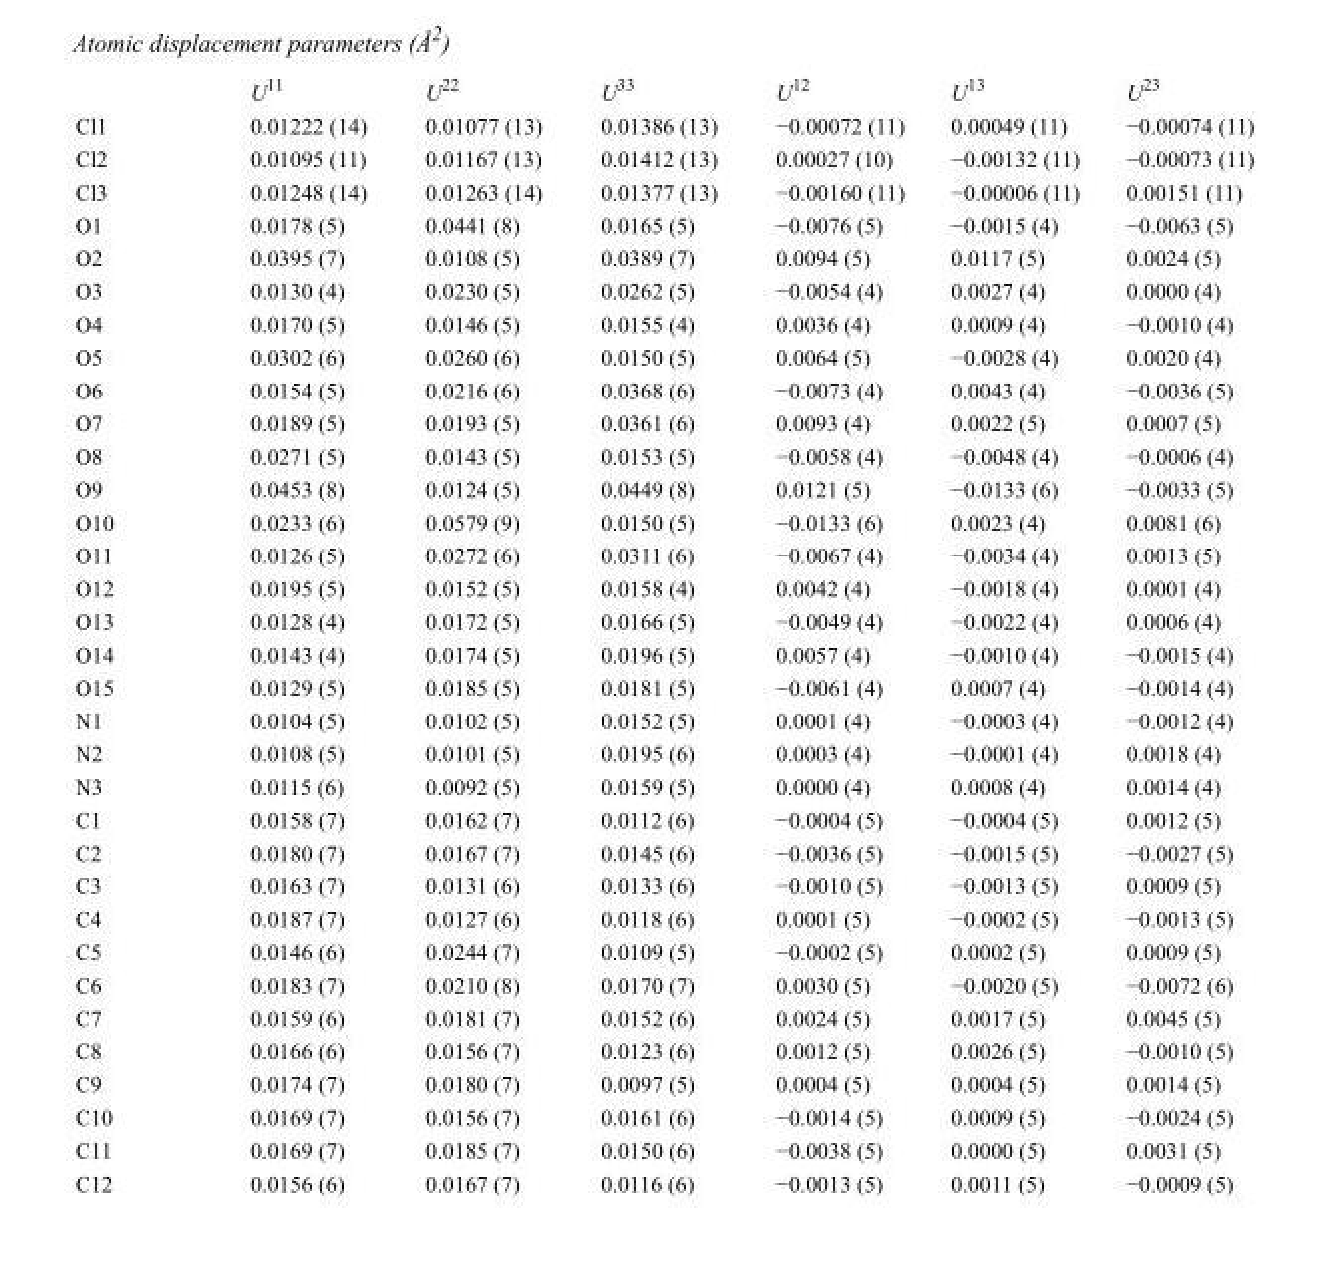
<table><thead><tr><td></td><td>U<sup>11</sup></td><td>U<sup>22</sup></td><td>U<sup>33</sup></td><td>U<sup>12</sup></td><td>U<sup>13</sup></td><td>U<sup>23</sup></td></tr></thead><tbody><tr><td>Cl1</td><td>0.01222 (14)</td><td>0.01077 (13)</td><td>0.01386 (13)</td><td>−0.00072 (11)</td><td>0.00049 (11)</td><td>−0.00074 (11)</td></tr><tr><td>Cl2</td><td>0.01095 (11)</td><td>0.01167 (13)</td><td>0.01412 (13)</td><td>0.00027 (10)</td><td>−0.00132 (11)</td><td>−0.00073 (11)</td></tr><tr><td>Cl3</td><td>0.01248 (14)</td><td>0.01263 (14)</td><td>0.01377 (13)</td><td>−0.00160 (11)</td><td>−0.00006 (11)</td><td>0.00151 (11)</td></tr><tr><td>O1</td><td>0.0178 (5)</td><td>0.0441 (8)</td><td>0.0165 (5)</td><td>−0.0076 (5)</td><td>−0.0015 (4)</td><td>−0.0063 (5)</td></tr><tr><td>O2</td><td>0.0395 (7)</td><td>0.0108 (5)</td><td>0.0389 (7)</td><td>0.0094 (5)</td><td>0.0117 (5)</td><td>0.0024 (5)</td></tr><tr><td>O3</td><td>0.0130 (4)</td><td>0.0230 (5)</td><td>0.0262 (5)</td><td>−0.0054 (4)</td><td>0.0027 (4)</td><td>0.0000 (4)</td></tr><tr><td>O4</td><td>0.0170 (5)</td><td>0.0146 (5)</td><td>0.0155 (4)</td><td>0.0036 (4)</td><td>0.0009 (4)</td><td>−0.0010 (4)</td></tr><tr><td>O5</td><td>0.0302 (6)</td><td>0.0260 (6)</td><td>0.0150 (5)</td><td>0.0064 (5)</td><td>−0.0028 (4)</td><td>0.0020 (4)</td></tr><tr><td>O6</td><td>0.0154 (5)</td><td>0.0216 (6)</td><td>0.0368 (6)</td><td>−0.0073 (4)</td><td>0.0043 (4)</td><td>−0.0036 (5)</td></tr><tr><td>O7</td><td>0.0189 (5)</td><td>0.0193 (5)</td><td>0.0361 (6)</td><td>0.0093 (4)</td><td>0.0022 (5)</td><td>0.0007 (5)</td></tr><tr><td>O8</td><td>0.0271 (5)</td><td>0.0143 (5)</td><td>0.0153 (5)</td><td>−0.0058 (4)</td><td>−0.0048 (4)</td><td>−0.0006 (4)</td></tr><tr><td>O9</td><td>0.0453 (8)</td><td>0.0124 (5)</td><td>0.0449 (8)</td><td>0.0121 (5)</td><td>−0.0133 (6)</td><td>−0.0033 (5)</td></tr><tr><td>O10</td><td>0.0233 (6)</td><td>0.0579 (9)</td><td>0.0150 (5)</td><td>−0.0133 (6)</td><td>0.0023 (4)</td><td>0.0081 (6)</td></tr><tr><td>O11</td><td>0.0126 (5)</td><td>0.0272 (6)</td><td>0.0311 (6)</td><td>−0.0067 (4)</td><td>−0.0034 (4)</td><td>0.0013 (5)</td></tr><tr><td>O12</td><td>0.0195 (5)</td><td>0.0152 (5)</td><td>0.0158 (4)</td><td>0.0042 (4)</td><td>−0.0018 (4)</td><td>0.0001 (4)</td></tr><tr><td>O13</td><td>0.0128 (4)</td><td>0.0172 (5)</td><td>0.0166 (5)</td><td>−0.0049 (4)</td><td>−0.0022 (4)</td><td>0.0006 (4)</td></tr><tr><td>O14</td><td>0.0143 (4)</td><td>0.0174 (5)</td><td>0.0196 (5)</td><td>0.0057 (4)</td><td>−0.0010 (4)</td><td>−0.0015 (4)</td></tr><tr><td>O15</td><td>0.0129 (5)</td><td>0.0185 (5)</td><td>0.0181 (5)</td><td>−0.0061 (4)</td><td>0.0007 (4)</td><td>−0.0014 (4)</td></tr><tr><td>N1</td><td>0.0104 (5)</td><td>0.0102 (5)</td><td>0.0152 (5)</td><td>0.0001 (4)</td><td>−0.0003 (4)</td><td>−0.0012 (4)</td></tr><tr><td>N2</td><td>0.0108 (5)</td><td>0.0101 (5)</td><td>0.0195 (6)</td><td>0.0003 (4)</td><td>−0.0001 (4)</td><td>0.0018 (4)</td></tr><tr><td>N3</td><td>0.0115 (6)</td><td>0.0092 (5)</td><td>0.0159 (5)</td><td>0.0000 (4)</td><td>0.0008 (4)</td><td>0.0014 (4)</td></tr><tr><td>C1</td><td>0.0158 (7)</td><td>0.0162 (7)</td><td>0.0112 (6)</td><td>−0.0004 (5)</td><td>−0.0004 (5)</td><td>0.0012 (5)</td></tr><tr><td>C2</td><td>0.0180 (7)</td><td>0.0167 (7)</td><td>0.0145 (6)</td><td>−0.0036 (5)</td><td>−0.0015 (5)</td><td>−0.0027 (5)</td></tr><tr><td>C3</td><td>0.0163 (7)</td><td>0.0131 (6)</td><td>0.0133 (6)</td><td>−0.0010 (5)</td><td>−0.0013 (5)</td><td>0.0009 (5)</td></tr><tr><td>C4</td><td>0.0187 (7)</td><td>0.0127 (6)</td><td>0.0118 (6)</td><td>0.0001 (5)</td><td>−0.0002 (5)</td><td>−0.0013 (5)</td></tr><tr><td>C5</td><td>0.0146 (6)</td><td>0.0244 (7)</td><td>0.0109 (5)</td><td>−0.0002 (5)</td><td>0.0002 (5)</td><td>0.0009 (5)</td></tr><tr><td>C6</td><td>0.0183 (7)</td><td>0.0210 (8)</td><td>0.0170 (7)</td><td>0.0030 (5)</td><td>−0.0020 (5)</td><td>−0.0072 (6)</td></tr><tr><td>C7</td><td>0.0159 (6)</td><td>0.0181 (7)</td><td>0.0152 (6)</td><td>0.0024 (5)</td><td>0.0017 (5)</td><td>0.0045 (5)</td></tr><tr><td>C8</td><td>0.0166 (6)</td><td>0.0156 (7)</td><td>0.0123 (6)</td><td>0.0012 (5)</td><td>0.0026 (5)</td><td>−0.0010 (5)</td></tr><tr><td>C9</td><td>0.0174 (7)</td><td>0.0180 (7)</td><td>0.0097 (5)</td><td>0.0004 (5)</td><td>0.0004 (5)</td><td>0.0014 (5)</td></tr><tr><td>C10</td><td>0.0169 (7)</td><td>0.0156 (7)</td><td>0.0161 (6)</td><td>−0.0014 (5)</td><td>0.0009 (5)</td><td>−0.0024 (5)</td></tr><tr><td>C11</td><td>0.0169 (7)</td><td>0.0185 (7)</td><td>0.0150 (6)</td><td>−0.0038 (5)</td><td>0.0000 (5)</td><td>0.0031 (5)</td></tr><tr><td>C12</td><td>0.0156 (6)</td><td>0.0167 (7)</td><td>0.0116 (6)</td><td>−0.0013 (5)</td><td>0.0011 (5)</td><td>−0.0009 (5)</td></tr></tbody></table>